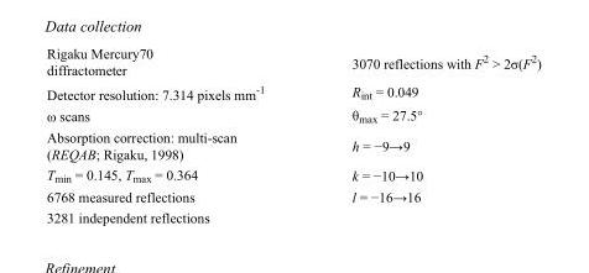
<table><tbody><tr><td>Rigaku Mercury70 diffractometer</td><td>3070 reflections with F<sup>2</sup> &gt; 2σ(F<sup>2</sup>)</td></tr><tr><td>Detector resolution: 7.314 pixels mm<sup>-1</sup></td><td>R<sub>int</sub> = 0.049</td></tr><tr><td>ω scans</td><td>θ<sub>max</sub> = 27.5°</td></tr><tr><td>Absorption correction: multi-scan (REQAB; Rigaku, 1998)</td><td>h = −9→9</td></tr><tr><td>T<sub>min</sub> = 0.145, T<sub>max</sub> = 0.364</td><td>k = −10→10</td></tr><tr><td>6768 measured reflections</td><td>l = −16→16</td></tr><tr><td>3281 independent reflections</td><td></td></tr></tbody></table>